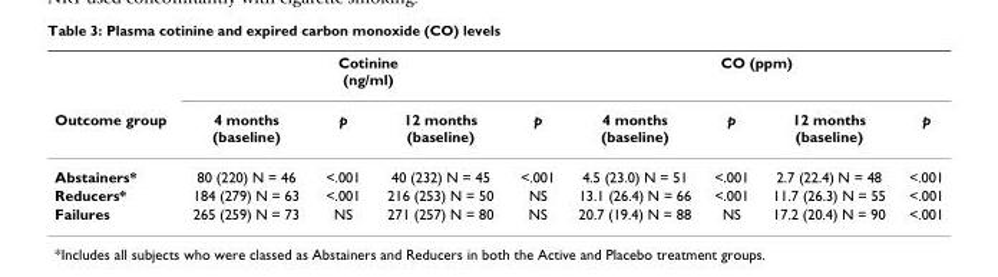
<table><thead><tr><td rowspan="2">Outcome group</td><td colspan="4">Cotinine (ng/ml)</td><td colspan="4">CO (ppm)</td></tr><tr><td>4 months (baseline)</td><td>p</td><td>12 months (baseline)</td><td>p</td><td>4 months (baseline)</td><td>p</td><td>12 months (baseline)</td><td>p</td></tr></thead><tbody><tr><td>Abstainers*</td><td>80 (220) N = 46</td><td>&lt;.001</td><td>40 (232) N = 45</td><td>&lt;.001</td><td>4.5 (23.0) N = 51</td><td>&lt;.001</td><td>2.7 (22.4) N = 48</td><td>&lt;.001</td></tr><tr><td>Reducers*</td><td>184 (279) N = 63</td><td>&lt;.001</td><td>216 (253) N = 50</td><td>NS</td><td>13.1 (26.4) N = 66</td><td>&lt;.001</td><td>11.7 (26.3) N = 55</td><td>&lt;.001</td></tr><tr><td>Failures</td><td>265 (259) N = 73</td><td>NS</td><td>271 (257) N = 80</td><td>NS</td><td>20.7 (19.4) N = 88</td><td>NS</td><td>17.2 (20.4) N = 90</td><td>&lt;.001</td></tr></tbody></table>